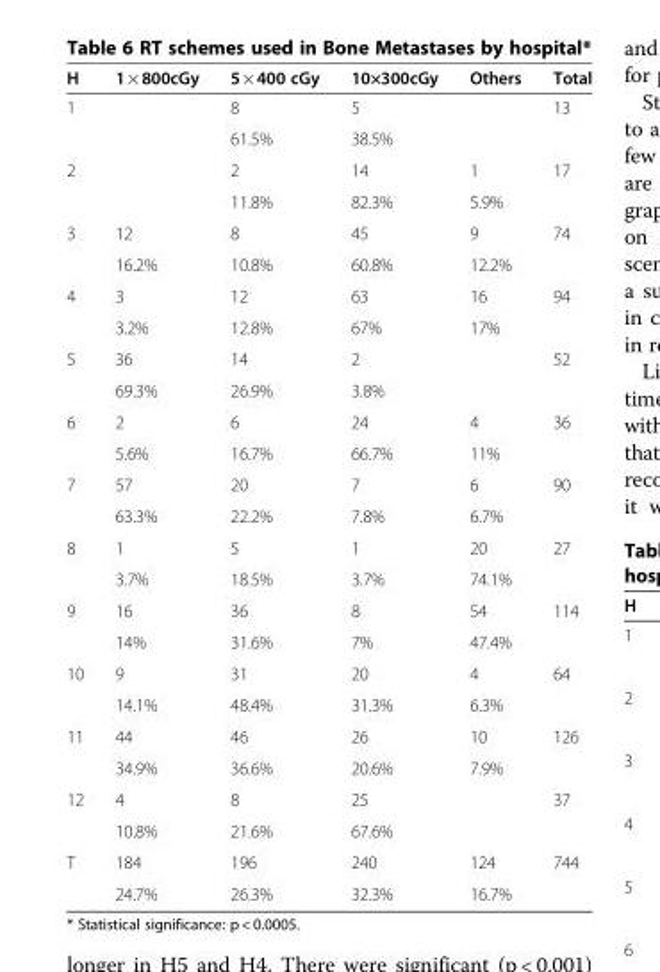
<table><thead><tr><td>H</td><td>1 × 800cGy</td><td>5 × 400 cGy</td><td>10×300cGy</td><td>Others</td><td>Total</td></tr></thead><tbody><tr><td rowspan="2">1</td><td></td><td>8</td><td>5</td><td></td><td>13</td></tr><tr><td></td><td>61.5%</td><td>38.5%</td><td></td><td></td></tr><tr><td rowspan="2">2</td><td></td><td>2</td><td>14</td><td>1</td><td>17</td></tr><tr><td></td><td>11.8%</td><td>82.3%</td><td>5.9%</td><td></td></tr><tr><td rowspan="2">3</td><td>12</td><td>8</td><td>45</td><td>9</td><td>74</td></tr><tr><td>16.2%</td><td>10.8%</td><td>60.8%</td><td>12.2%</td><td></td></tr><tr><td rowspan="2">4</td><td>3</td><td>12</td><td>63</td><td>16</td><td>94</td></tr><tr><td>3.2%</td><td>12.8%</td><td>67%</td><td>17%</td><td></td></tr><tr><td rowspan="2">5</td><td>36</td><td>14</td><td>2</td><td></td><td>52</td></tr><tr><td>69.3%</td><td>26.9%</td><td>3.8%</td><td></td><td></td></tr><tr><td rowspan="2">6</td><td>2</td><td>6</td><td>24</td><td>4</td><td>36</td></tr><tr><td>5.6%</td><td>16.7%</td><td>66.7%</td><td>11%</td><td></td></tr><tr><td rowspan="2">7</td><td>57</td><td>20</td><td>7</td><td>6</td><td>90</td></tr><tr><td>63.3%</td><td>22.2%</td><td>7.8%</td><td>6.7%</td><td></td></tr><tr><td rowspan="2">8</td><td>1</td><td>5</td><td>1</td><td>20</td><td>27</td></tr><tr><td>3.7%</td><td>18.5%</td><td>3.7%</td><td>74.1%</td><td></td></tr><tr><td rowspan="2">9</td><td>16</td><td>36</td><td>8</td><td>54</td><td>114</td></tr><tr><td>14%</td><td>31.6%</td><td>7%</td><td>47.4%</td><td></td></tr><tr><td rowspan="2">10</td><td>9</td><td>31</td><td>20</td><td>4</td><td>64</td></tr><tr><td>14.1%</td><td>48.4%</td><td>31.3%</td><td>6.3%</td><td></td></tr><tr><td rowspan="2">11</td><td>44</td><td>46</td><td>26</td><td>10</td><td>126</td></tr><tr><td>34.9%</td><td>36.6%</td><td>20.6%</td><td>7.9%</td><td></td></tr><tr><td rowspan="2">12</td><td>4</td><td>8</td><td>25</td><td></td><td>37</td></tr><tr><td>10.8%</td><td>21.6%</td><td>67.6%</td><td></td><td></td></tr><tr><td rowspan="2">T</td><td>184</td><td>196</td><td>240</td><td>124</td><td>744</td></tr><tr><td>24.7%</td><td>26.3%</td><td>32.3%</td><td>16.7%</td><td></td></tr></tbody></table>